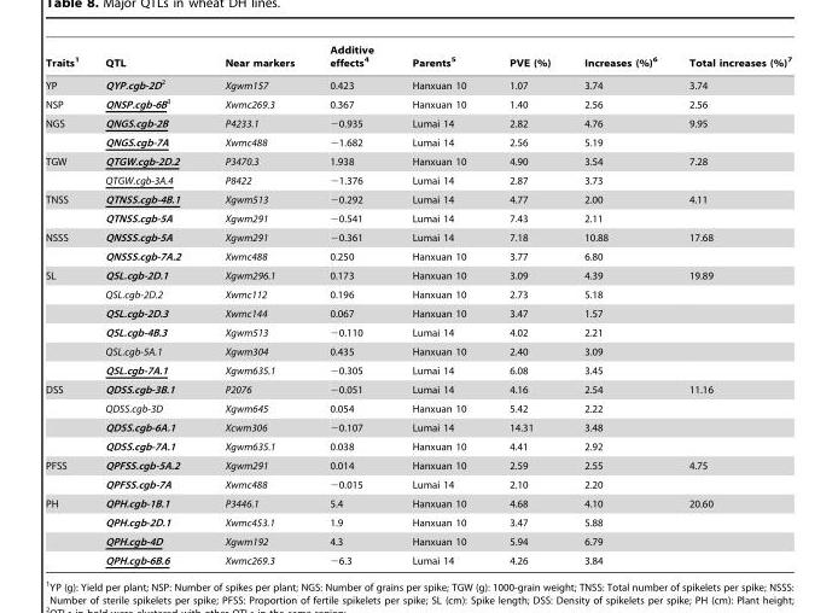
<table><thead><tr><td>Traits<sup>1</sup></td><td>QTL</td><td>Near markers</td><td>Additive effects<sup>4</sup></td><td>Parents<sup>5</sup></td><td>PVE (%)</td><td>Increases (%)<sup>6</sup></td><td>Total increases (%)<sup>7</sup></td></tr></thead><tbody><tr><td>YP</td><td>QYP.cgb-2D2</td><td>Xgwm157</td><td>0.423</td><td>Hanxuan 10</td><td>1.07</td><td>3.74</td><td>3.74</td></tr><tr><td>NSP</td><td>QNSP.cgb-6B3</td><td>Xwmc269.3</td><td>0.367</td><td>Hanxuan 10</td><td>1.40</td><td>2.56</td><td>2.56</td></tr><tr><td rowspan="2">NGS</td><td>QNGS.cgb-2B</td><td>P4233.1</td><td>−0.935</td><td>Lumai 14</td><td>2.82</td><td>4.76</td><td>9.95</td></tr><tr><td>QNGS.cgb-7A</td><td>Xwmc488</td><td>−1.682</td><td>Lumai 14</td><td>2.56</td><td>5.19</td><td></td></tr><tr><td rowspan="2">TGW</td><td>QTGW.cgb-2D.2</td><td>P3470.3</td><td>1.938</td><td>Hanxuan 10</td><td>4.90</td><td>3.54</td><td>7.28</td></tr><tr><td>QTGW.cgb-3A.4</td><td>P8422</td><td>−1.376</td><td>Lumai 14</td><td>2.87</td><td>3.73</td><td></td></tr><tr><td rowspan="2">TNSS</td><td>QTNSS.cgb-4B.1</td><td>Xgwm513</td><td>−0.292</td><td>Lumai 14</td><td>4.77</td><td>2.00</td><td>4.11</td></tr><tr><td>QTNSS.cgb-5A</td><td>Xgwm291</td><td>−0.541</td><td>Lumai 14</td><td>7.43</td><td>2.11</td><td></td></tr><tr><td rowspan="2">NSSS</td><td>QNSSS.cgb-5A</td><td>Xgwm291</td><td>−0.361</td><td>Lumai 14</td><td>7.18</td><td>10.88</td><td>17.68</td></tr><tr><td>QNSSS.cgb-7A.2</td><td>Xwmc488</td><td>0.250</td><td>Hanxuan 10</td><td>3.77</td><td>6.80</td><td></td></tr><tr><td rowspan="6">SL</td><td>QSL.cgb-2D.1</td><td>Xgwm296.1</td><td>0.173</td><td>Hanxuan 10</td><td>3.09</td><td>4.39</td><td>19.89</td></tr><tr><td>QSL.cgb-2D.2</td><td>Xwmc112</td><td>0.196</td><td>Hanxuan 10</td><td>2.73</td><td>5.18</td><td></td></tr><tr><td>QSL.cgb-2D.3</td><td>Xwmc144</td><td>0.067</td><td>Hanxuan 10</td><td>3.47</td><td>1.57</td><td></td></tr><tr><td>QSL.cgb-4B.3</td><td>Xgwm513</td><td>−0.110</td><td>Lumai 14</td><td>4.02</td><td>2.21</td><td></td></tr><tr><td>QSL.cgb-5A.1</td><td>Xgwm304</td><td>0.435</td><td>Hanxuan 10</td><td>2.40</td><td>3.09</td><td></td></tr><tr><td>QSL.cgb-7A.1</td><td>Xgwm635.1</td><td>−0.305</td><td>Lumai 14</td><td>6.08</td><td>3.45</td><td></td></tr><tr><td rowspan="4">DSS</td><td>QDSS.cgb-3B.1</td><td>P2076</td><td>−0.051</td><td>Lumai 14</td><td>4.16</td><td>2.54</td><td>11.16</td></tr><tr><td>QDSS.cgb-3D</td><td>Xgwm645</td><td>0.054</td><td>Hanxuan 10</td><td>5.42</td><td>2.22</td><td></td></tr><tr><td>QDSS.cgb-6A.1</td><td>Xcwm306</td><td>−0.107</td><td>Lumai 14</td><td>14.31</td><td>3.48</td><td></td></tr><tr><td>QDSS.cgb-7A.1</td><td>Xgwm635.1</td><td>0.038</td><td>Hanxuan 10</td><td>4.41</td><td>2.92</td><td></td></tr><tr><td rowspan="2">PFSS</td><td>QPFSS.cgb-5A.2</td><td>Xgwm291</td><td>0.014</td><td>Hanxuan 10</td><td>2.59</td><td>2.55</td><td>4.75</td></tr><tr><td>QPFSS.cgb-7A</td><td>Xwmc488</td><td>−0.015</td><td>Lumai 14</td><td>2.10</td><td>2.20</td><td></td></tr><tr><td rowspan="4">PH</td><td>QPH.cgb-1B.1</td><td>P3446.1</td><td>5.4</td><td>Hanxuan 10</td><td>4.68</td><td>4.10</td><td>20.60</td></tr><tr><td>QPH.cgb-2D.1</td><td>Xwmc453.1</td><td>1.9</td><td>Hanxuan 10</td><td>3.47</td><td>5.88</td><td></td></tr><tr><td>QPH.cgb-4D</td><td>Xgwm192</td><td>4.3</td><td>Hanxuan 10</td><td>5.94</td><td>6.79</td><td></td></tr><tr><td>QPH.cgb-6B.6</td><td>Xwmc269.3</td><td>−6.3</td><td>Lumai 14</td><td>4.26</td><td>3.84</td><td></td></tr></tbody></table>